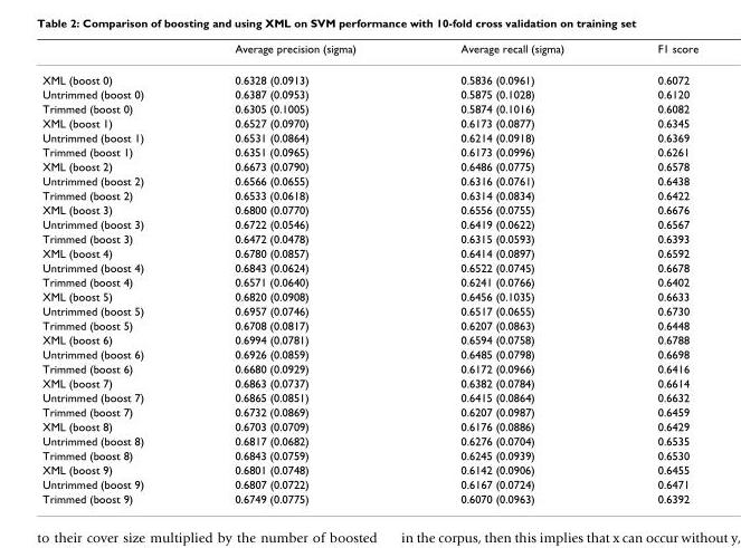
<table><thead><tr><td></td><td>Average precision (sigma)</td><td>Average recall (sigma)</td><td>F1 score</td></tr></thead><tbody><tr><td>XML (boost 0)</td><td>0.6328 (0.0913)</td><td>0.5836 (0.0961)</td><td>0.6072</td></tr><tr><td>Untrimmed (boost 0)</td><td>0.6387 (0.0953)</td><td>0.5875 (0.1028)</td><td>0.6120</td></tr><tr><td>Trimmed (boost 0)</td><td>0.6305 (0.1005)</td><td>0.5874 (0.1016)</td><td>0.6082</td></tr><tr><td>XML (boost 1)</td><td>0.6527 (0.0970)</td><td>0.6173 (0.0877)</td><td>0.6345</td></tr><tr><td>Untrimmed (boost 1)</td><td>0.6531 (0.0864)</td><td>0.6214 (0.0918)</td><td>0.6369</td></tr><tr><td>Trimmed (boost 1)</td><td>0.6351 (0.0965)</td><td>0.6173 (0.0996)</td><td>0.6261</td></tr><tr><td>XML (boost 2)</td><td>0.6673 (0.0790)</td><td>0.6486 (0.0775)</td><td>0.6578</td></tr><tr><td>Untrimmed (boost 2)</td><td>0.6566 (0.0655)</td><td>0.6316 (0.0761)</td><td>0.6438</td></tr><tr><td>Trimmed (boost 2)</td><td>0.6533 (0.0618)</td><td>0.6314 (0.0834)</td><td>0.6422</td></tr><tr><td>XML (boost 3)</td><td>0.6800 (0.0770)</td><td>0.6556 (0.0755)</td><td>0.6676</td></tr><tr><td>Untrimmed (boost 3)</td><td>0.6722 (0.0546)</td><td>0.6419 (0.0622)</td><td>0.6567</td></tr><tr><td>Trimmed (boost 3)</td><td>0.6472 (0.0478)</td><td>0.6315 (0.0593)</td><td>0.6393</td></tr><tr><td>XML (boost 4)</td><td>0.6780 (0.0857)</td><td>0.6414 (0.0897)</td><td>0.6592</td></tr><tr><td>Untrimmed (boost 4)</td><td>0.6843 (0.0624)</td><td>0.6522 (0.0745)</td><td>0.6678</td></tr><tr><td>Trimmed (boost 4)</td><td>0.6571 (0.0640)</td><td>0.6241 (0.0766)</td><td>0.6402</td></tr><tr><td>XML (boost 5)</td><td>0.6820 (0.0908)</td><td>0.6456 (0.1035)</td><td>0.6633</td></tr><tr><td>Untrimmed (boost 5)</td><td>0.6957 (0.0746)</td><td>0.6517 (0.0655)</td><td>0.6730</td></tr><tr><td>Trimmed (boost 5)</td><td>0.6708 (0.0817)</td><td>0.6207 (0.0863)</td><td>0.6448</td></tr><tr><td>XML (boost 6)</td><td>0.6994 (0.0781)</td><td>0.6594 (0.0758)</td><td>0.6788</td></tr><tr><td>Untrimmed (boost 6)</td><td>0.6926 (0.0859)</td><td>0.6485 (0.0798)</td><td>0.6698</td></tr><tr><td>Trimmed (boost 6)</td><td>0.6680 (0.0929)</td><td>0.6172 (0.0966)</td><td>0.6416</td></tr><tr><td>XML (boost 7)</td><td>0.6863 (0.0737)</td><td>0.6382 (0.0784)</td><td>0.6614</td></tr><tr><td>Untrimmed (boost 7)</td><td>0.6865 (0.0851)</td><td>0.6415 (0.0864)</td><td>0.6632</td></tr><tr><td>Trimmed (boost 7)</td><td>0.6732 (0.0869)</td><td>0.6207 (0.0987)</td><td>0.6459</td></tr><tr><td>XML (boost 8)</td><td>0.6703 (0.0709)</td><td>0.6176 (0.0886)</td><td>0.6429</td></tr><tr><td>Untrimmed (boost 8)</td><td>0.6817 (0.0682)</td><td>0.6276 (0.0704)</td><td>0.6535</td></tr><tr><td>Trimmed (boost 8)</td><td>0.6843 (0.0759)</td><td>0.6245 (0.0939)</td><td>0.6530</td></tr><tr><td>XML (boost 9)</td><td>0.6801 (0.0748)</td><td>0.6142 (0.0906)</td><td>0.6455</td></tr><tr><td>Untrimmed (boost 9)</td><td>0.6807 (0.0722)</td><td>0.6167 (0.0724)</td><td>0.6471</td></tr><tr><td>Trimmed (boost 9)</td><td>0.6749 (0.0775)</td><td>0.6070 (0.0963)</td><td>0.6392</td></tr></tbody></table>